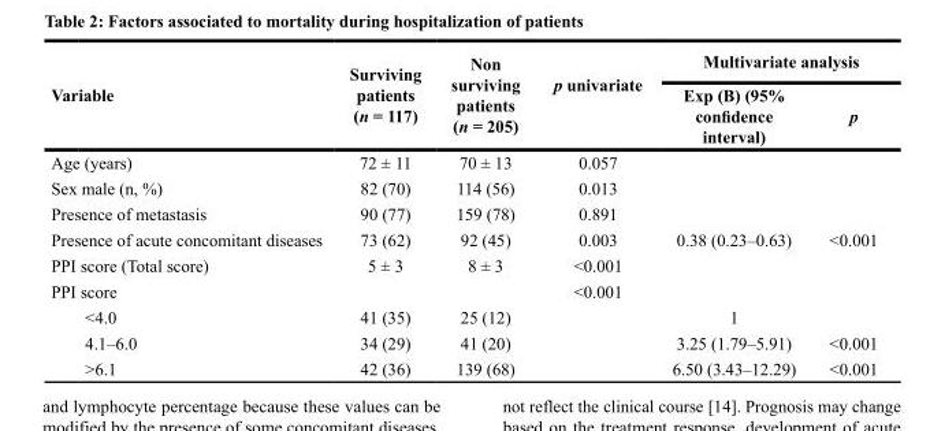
<table><thead><tr><td rowspan="2">Variable</td><td rowspan="2">Surviving patients (n = 117)</td><td rowspan="2">Non surviving patients (n = 205)</td><td rowspan="2">p univariate</td><td colspan="2">Multivariate analysis</td></tr><tr><td>Exp (B) (95% confidence interval)</td><td>p</td></tr></thead><tbody><tr><td>Age (years)</td><td>72 ± 11</td><td>70 ± 13</td><td>0.057</td><td></td><td></td></tr><tr><td>Sex male (n, %)</td><td>82 (70)</td><td>114 (56)</td><td>0.013</td><td></td><td></td></tr><tr><td>Presence of metastasis</td><td>90 (77)</td><td>159 (78)</td><td>0.891</td><td></td><td></td></tr><tr><td>Presence of acute concomitant diseases</td><td>73 (62)</td><td>92 (45)</td><td>0.003</td><td>0.38 (0.23–0.63)</td><td>&lt;0.001</td></tr><tr><td>PPI score (Total score)</td><td>5 ± 3</td><td>8 ± 3</td><td>&lt;0.001</td><td></td><td></td></tr><tr><td>PPI score</td><td></td><td></td><td>&lt;0.001</td><td></td><td></td></tr><tr><td>&lt;4.0</td><td>41 (35)</td><td>25 (12)</td><td></td><td>1</td><td></td></tr><tr><td>4.1–6.0</td><td>34 (29)</td><td>41 (20)</td><td></td><td>3.25 (1.79–5.91)</td><td>&lt;0.001</td></tr><tr><td>&gt;6.1</td><td>42 (36)</td><td>139 (68)</td><td></td><td>6.50 (3.43–12.29)</td><td>&lt;0.001</td></tr></tbody></table>